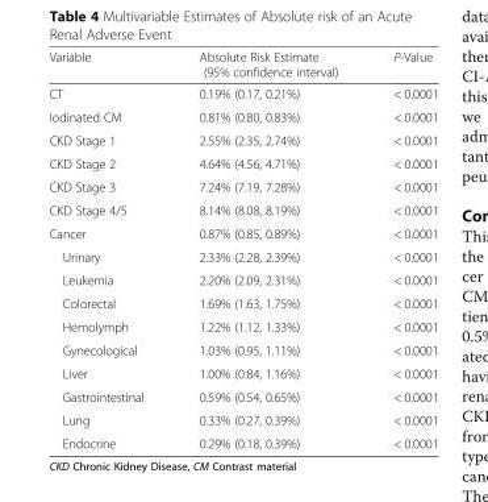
<table><thead><tr><td>Variable</td><td>Absolute Risk Estimate (95% confidence interval)</td><td>P-Value</td></tr></thead><tbody><tr><td>CT</td><td>0.19% (0.17, 0.21%)</td><td>&lt; 0.0001</td></tr><tr><td>Iodinated CM</td><td>0.81% (0.80, 0.83%)</td><td>&lt; 0.0001</td></tr><tr><td>CKD Stage 1</td><td>2.55% (2.35, 2.74%)</td><td>&lt; 0.0001</td></tr><tr><td>CKD Stage 2</td><td>4.64% (4.56, 4.71%)</td><td>&lt; 0.0001</td></tr><tr><td>CKD Stage 3</td><td>7.24% (7.19, 7.28%)</td><td>&lt; 0.0001</td></tr><tr><td>CKD Stage 4/5</td><td>8.14% (8.08, 8.19%)</td><td>&lt; 0.0001</td></tr><tr><td>Cancer</td><td>0.87% (0.85, 0.89%)</td><td>&lt; 0.0001</td></tr><tr><td>Urinary</td><td>2.33% (2.28, 2.39%)</td><td>&lt; 0.0001</td></tr><tr><td>Leukemia</td><td>2.20% (2.09, 2.31%)</td><td>&lt; 0.0001</td></tr><tr><td>Colorectal</td><td>1.69% (1.63, 1.75%)</td><td>&lt; 0.0001</td></tr><tr><td>Hemolymph</td><td>1.22% (1.12, 1.33%)</td><td>&lt; 0.0001</td></tr><tr><td>Gynecological</td><td>1.03% (0.95, 1.11%)</td><td>&lt; 0.0001</td></tr><tr><td>Liver</td><td>1.00% (0.84, 1.16%)</td><td>&lt; 0.0001</td></tr><tr><td>Gastrointestinal</td><td>0.59% (0.54, 0.65%)</td><td>&lt; 0.0001</td></tr><tr><td>Lung</td><td>0.33% (0.27, 0.39%)</td><td>&lt; 0.0001</td></tr><tr><td>Endocrine</td><td>0.29% (0.18, 0.39%)</td><td>&lt; 0.0001</td></tr></tbody></table>